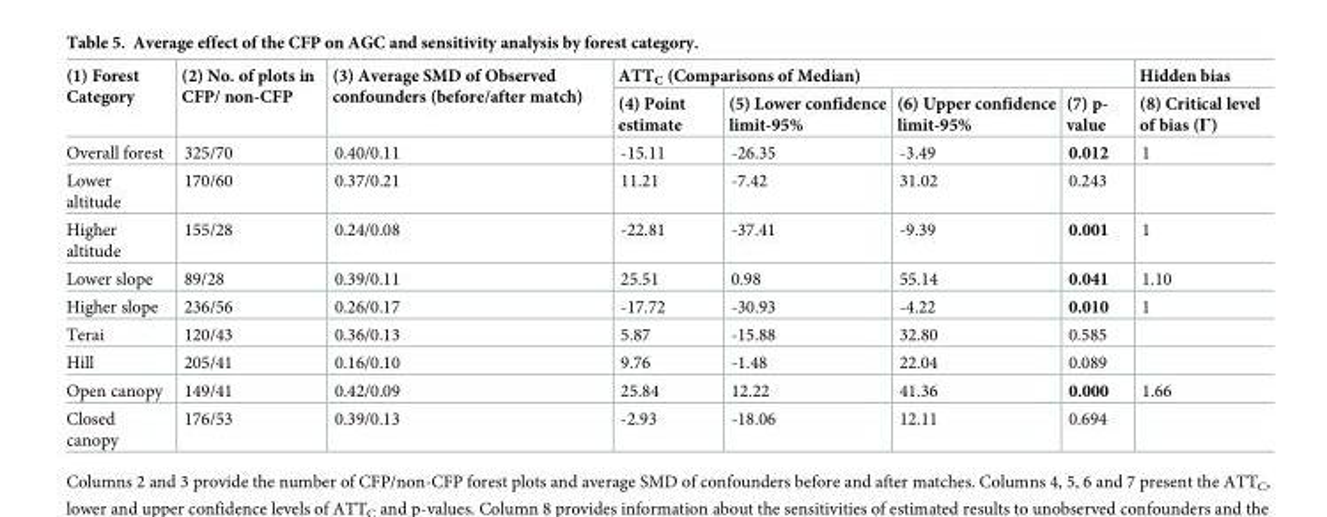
<table><thead><tr><td rowspan="2">(1) Forest Category</td><td rowspan="2">(2) No. of plots in CFP/ non-CFP</td><td rowspan="2">(3) Average SMD of Observed confounders (before/after match)</td><td colspan="4">ATT<sub>C</sub> (Comparisons of Median)</td><td rowspan="2">Hidden bias (8) Critical level of bias (Γ)</td></tr><tr><td>(4) Point estimate</td><td>(5) Lower confidence limit-95%</td><td>(6) Upper confidence limit-95%</td><td>(7) p- value</td></tr></thead><tbody><tr><td>Overall forest</td><td>325/70</td><td>0.40/0.11</td><td>-15.11</td><td>-26.35</td><td>-3.49</td><td>0.012</td><td>1</td></tr><tr><td>Lower altitude</td><td>170/60</td><td>0.37/0.21</td><td>11.21</td><td>-7.42</td><td>31.02</td><td>0.243</td><td></td></tr><tr><td>Higher altitude</td><td>155/28</td><td>0.24/0.08</td><td>-22.81</td><td>-37.41</td><td>-9.39</td><td>0.001</td><td>1</td></tr><tr><td>Lower slope</td><td>89/28</td><td>0.39/0.11</td><td>25.51</td><td>0.98</td><td>55.14</td><td>0.041</td><td>1.10</td></tr><tr><td>Higher slope</td><td>236/56</td><td>0.26/0.17</td><td>-17.72</td><td>-30.93</td><td>-4.22</td><td>0.010</td><td>1</td></tr><tr><td>Terai</td><td>120/43</td><td>0.36/0.13</td><td>5.87</td><td>-15.88</td><td>32.80</td><td>0.585</td><td></td></tr><tr><td>Hill</td><td>205/41</td><td>0.16/0.10</td><td>9.76</td><td>-1.48</td><td>22.04</td><td>0.089</td><td></td></tr><tr><td>Open canopy</td><td>149/41</td><td>0.42/0.09</td><td>25.84</td><td>12.22</td><td>41.36</td><td>0.000</td><td>1.66</td></tr><tr><td>Closed canopy</td><td>176/53</td><td>0.39/0.13</td><td>-2.93</td><td>-18.06</td><td>12.11</td><td>0.694</td><td></td></tr></tbody></table>